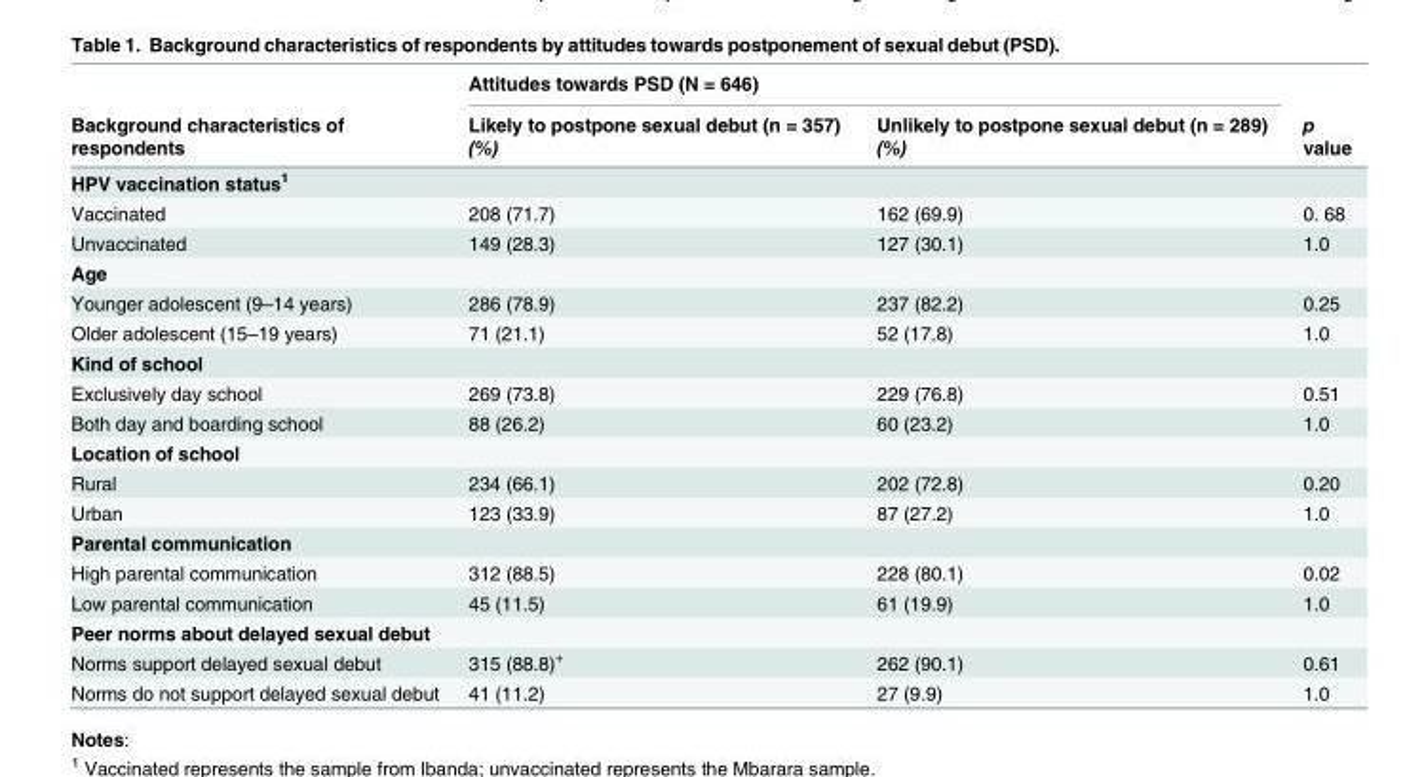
<table><thead><tr><td rowspan="2">Background characteristics of respondents</td><td colspan="2">Attitudes towards PSD (N = 646)</td><td rowspan="2">p value</td></tr><tr><td>Likely to postpone sexual debut (n = 357) (%)</td><td>Unlikely to postpone sexual debut (n = 289) (%)</td></tr></thead><tbody><tr><td colspan="4">HPV vaccination status<sup>1</sup></td></tr><tr><td>Vaccinated</td><td>208 (71.7)</td><td>162 (69.9)</td><td>0. 68</td></tr><tr><td>Unvaccinated</td><td>149 (28.3)</td><td>127 (30.1)</td><td>1.0</td></tr><tr><td colspan="4">Age</td></tr><tr><td>Younger adolescent (9–14 years)</td><td>286 (78.9)</td><td>237 (82.2)</td><td>0.25</td></tr><tr><td>Older adolescent (15–19 years)</td><td>71 (21.1)</td><td>52 (17.8)</td><td>1.0</td></tr><tr><td colspan="4">Kind of school</td></tr><tr><td>Exclusively day school</td><td>269 (73.8)</td><td>229 (76.8)</td><td>0.51</td></tr><tr><td>Both day and boarding school</td><td>88 (26.2)</td><td>60 (23.2)</td><td>1.0</td></tr><tr><td colspan="4">Location of school</td></tr><tr><td>Rural</td><td>234 (66.1)</td><td>202 (72.8)</td><td>0.20</td></tr><tr><td>Urban</td><td>123 (33.9)</td><td>87 (27.2)</td><td>1.0</td></tr><tr><td colspan="4">Parental communication</td></tr><tr><td>High parental communication</td><td>312 (88.5)</td><td>228 (80.1)</td><td>0.02</td></tr><tr><td>Low parental communication</td><td>45 (11.5)</td><td>61 (19.9)</td><td>1.0</td></tr><tr><td colspan="4">Peer norms about delayed sexual debut</td></tr><tr><td>Norms support delayed sexual debut</td><td>315 (88.8)<sup>+</sup></td><td>262 (90.1)</td><td>0.61</td></tr><tr><td>Norms do not support delayed sexual debut</td><td>41 (11.2)</td><td>27 (9.9)</td><td>1.0</td></tr></tbody></table>